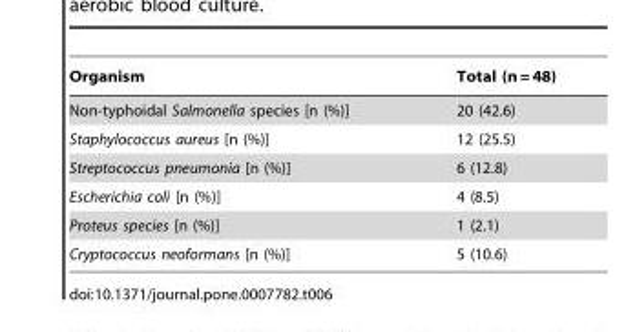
<table><thead><tr><td>Organism</td><td>Total (n = 48)</td></tr></thead><tbody><tr><td>Non-typhoidal Salmonella species [n (%)]</td><td>20 (42.6)</td></tr><tr><td>Staphylococcus aureus [n (%)]</td><td>12 (25.5)</td></tr><tr><td>Streptococcus pneumonia [n (%)]</td><td>6 (12.8)</td></tr><tr><td>Escherichia coli [n (%)]</td><td>4 (8.5)</td></tr><tr><td>Proteus species [n (%)]</td><td>1 (2.1)</td></tr><tr><td>Cryptococcus neoformans [n (%)]</td><td>5 (10.6)</td></tr></tbody></table>